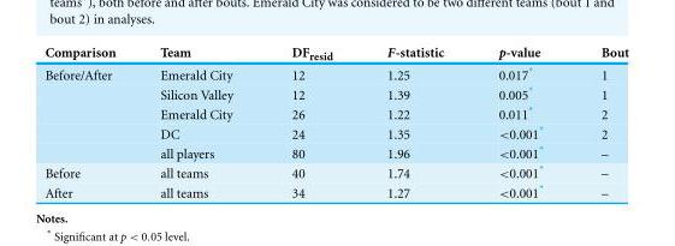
<table><thead><tr><td>Comparison</td><td>Team</td><td>DF<sub>resid</sub></td><td>F-statistic</td><td>p-value</td><td>Bout</td></tr></thead><tbody><tr><td rowspan="5">Before/After</td><td>Emerald City</td><td>12</td><td>1.25</td><td>0.017*</td><td>1</td></tr><tr><td>Silicon Valley</td><td>12</td><td>1.39</td><td>0.005*</td><td>1</td></tr><tr><td>Emerald City</td><td>26</td><td>1.22</td><td>0.011*</td><td>2</td></tr><tr><td>DC</td><td>24</td><td>1.35</td><td>&lt;0.001*</td><td>2</td></tr><tr><td>all players</td><td>80</td><td>1.96</td><td>&lt;0.001*</td><td>–</td></tr><tr><td>Before</td><td>all teams</td><td>40</td><td>1.74</td><td>&lt;0.001*</td><td>–</td></tr><tr><td>After</td><td>all teams</td><td>34</td><td>1.27</td><td>&lt;0.001*</td><td>–</td></tr></tbody></table>